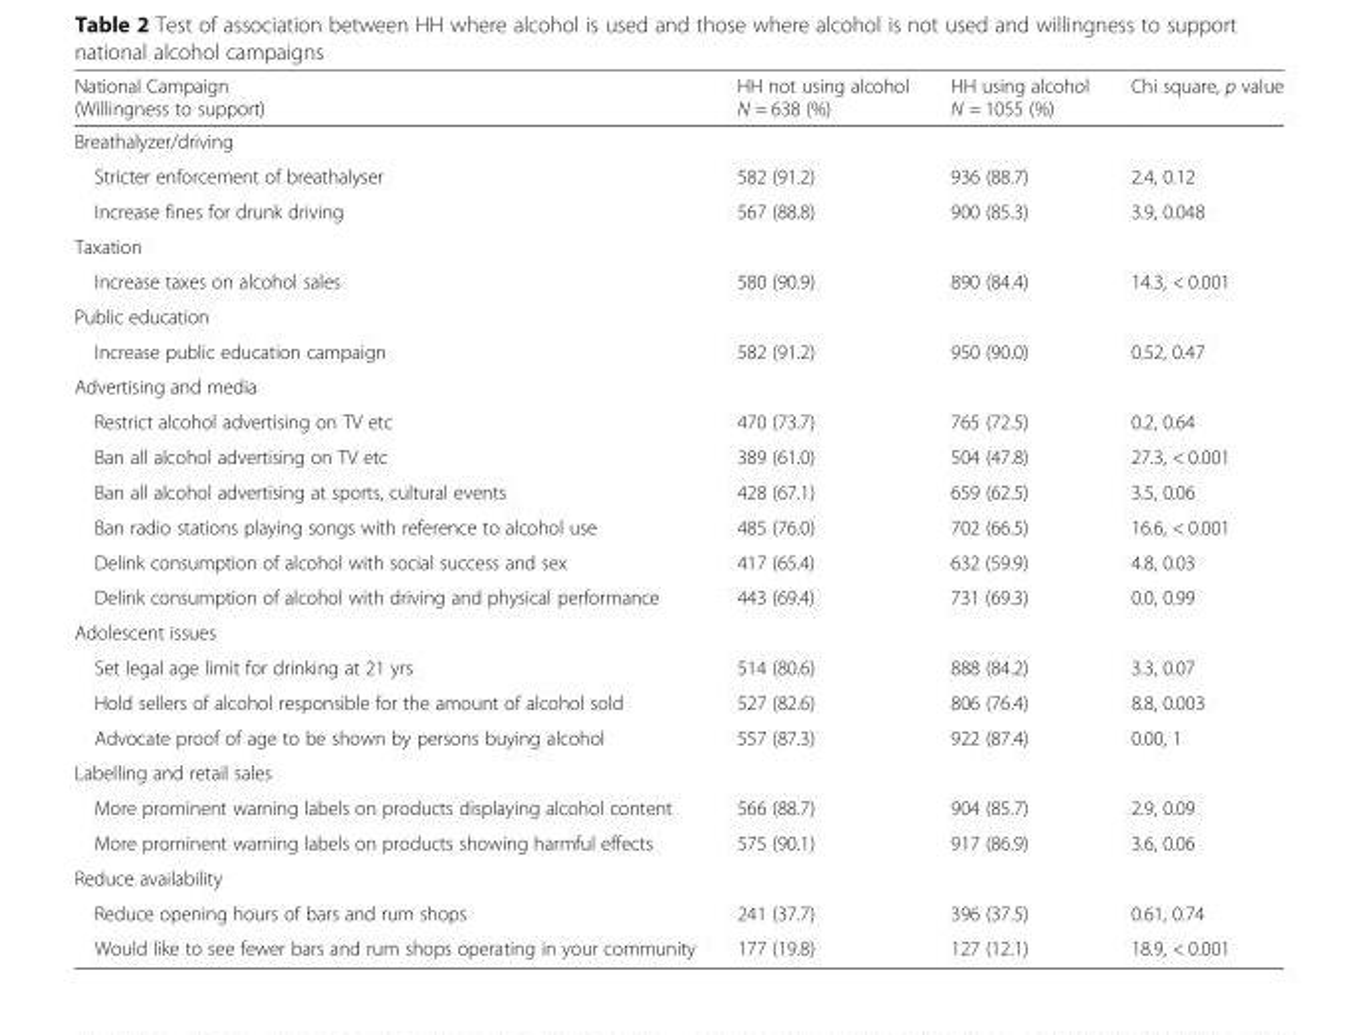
<table><thead><tr><td>National Campaign (Willingness to support)</td><td>HH not using alcohol N = 638 (%)</td><td>HH using alcohol N = 1055 (%)</td><td>Chi square, p value</td></tr></thead><tbody><tr><td colspan="4">Breathalyzer/driving</td></tr><tr><td>Stricter enforcement of breathalyser</td><td>582 (91.2)</td><td>936 (88.7)</td><td>2.4, 0.12</td></tr><tr><td>Increase fines for drunk driving</td><td>567 (88.8)</td><td>900 (85.3)</td><td>3.9, 0.048</td></tr><tr><td colspan="4">Taxation</td></tr><tr><td>Increase taxes on alcohol sales</td><td>580 (90.9)</td><td>890 (84.4)</td><td>14.3, &lt; 0.001</td></tr><tr><td colspan="4">Public education</td></tr><tr><td>Increase public education campaign</td><td>582 (91.2)</td><td>950 (90.0)</td><td>0.52, 0.47</td></tr><tr><td colspan="4">Advertising and media</td></tr><tr><td>Restrict alcohol advertising on TV etc</td><td>470 (73.7)</td><td>765 (72.5)</td><td>0.2, 0.64</td></tr><tr><td>Ban all alcohol advertising on TV etc</td><td>389 (61.0)</td><td>504 (47.8)</td><td>27.3, &lt; 0.001</td></tr><tr><td>Ban all alcohol advertising at sports, cultural events</td><td>428 (67.1)</td><td>659 (62.5)</td><td>3.5, 0.06</td></tr><tr><td>Ban radio stations playing songs with reference to alcohol use</td><td>485 (76.0)</td><td>702 (66.5)</td><td>16.6, &lt; 0.001</td></tr><tr><td>Delink consumption of alcohol with social success and sex</td><td>417 (65.4)</td><td>632 (59.9)</td><td>4.8, 0.03</td></tr><tr><td>Delink consumption of alcohol with driving and physical performance</td><td>443 (69.4)</td><td>731 (69.3)</td><td>0.0, 0.99</td></tr><tr><td colspan="4">Adolescent issues</td></tr><tr><td>Set legal age limit for drinking at 21 yrs</td><td>514 (80.6)</td><td>888 (84.2)</td><td>3.3, 0.07</td></tr><tr><td>Hold sellers of alcohol responsible for the amount of alcohol sold</td><td>527 (82.6)</td><td>806 (76.4)</td><td>8.8, 0.003</td></tr><tr><td>Advocate proof of age to be shown by persons buying alcohol</td><td>557 (87.3)</td><td>922 (87.4)</td><td>0.00, 1</td></tr><tr><td colspan="4">Labelling and retail sales</td></tr><tr><td>More prominent warning labels on products displaying alcohol content</td><td>566 (88.7)</td><td>904 (85.7)</td><td>2.9, 0.09</td></tr><tr><td>More prominent warning labels on products showing harmful effects</td><td>575 (90.1)</td><td>917 (86.9)</td><td>3.6, 0.06</td></tr><tr><td colspan="4">Reduce availability</td></tr><tr><td>Reduce opening hours of bars and rum shops</td><td>241 (37.7)</td><td>396 (37.5)</td><td>0.61, 0.74</td></tr><tr><td>Would like to see fewer bars and rum shops operating in your community</td><td>177 (19.8)</td><td>127 (12.1)</td><td>18.9, &lt; 0.001</td></tr></tbody></table>